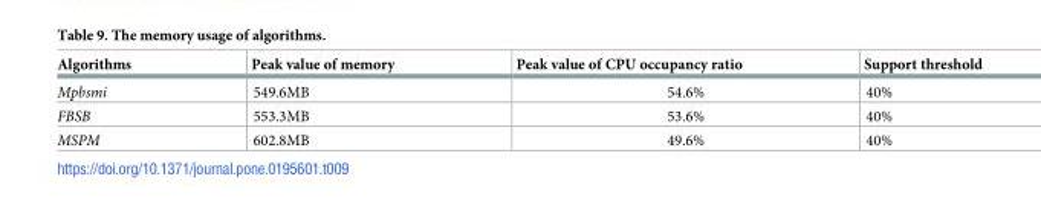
<table><thead><tr><td>Algorithms</td><td>Peak value of memory</td><td>Peak value of CPU occupancy ratio</td><td>Support threshold</td></tr></thead><tbody><tr><td>Mpbsmi</td><td>549.6MB</td><td>54.6%</td><td>40%</td></tr><tr><td>FBSB</td><td>553.3MB</td><td>53.6%</td><td>40%</td></tr><tr><td>MSPM</td><td>602.8MB</td><td>49.6%</td><td>40%</td></tr></tbody></table>